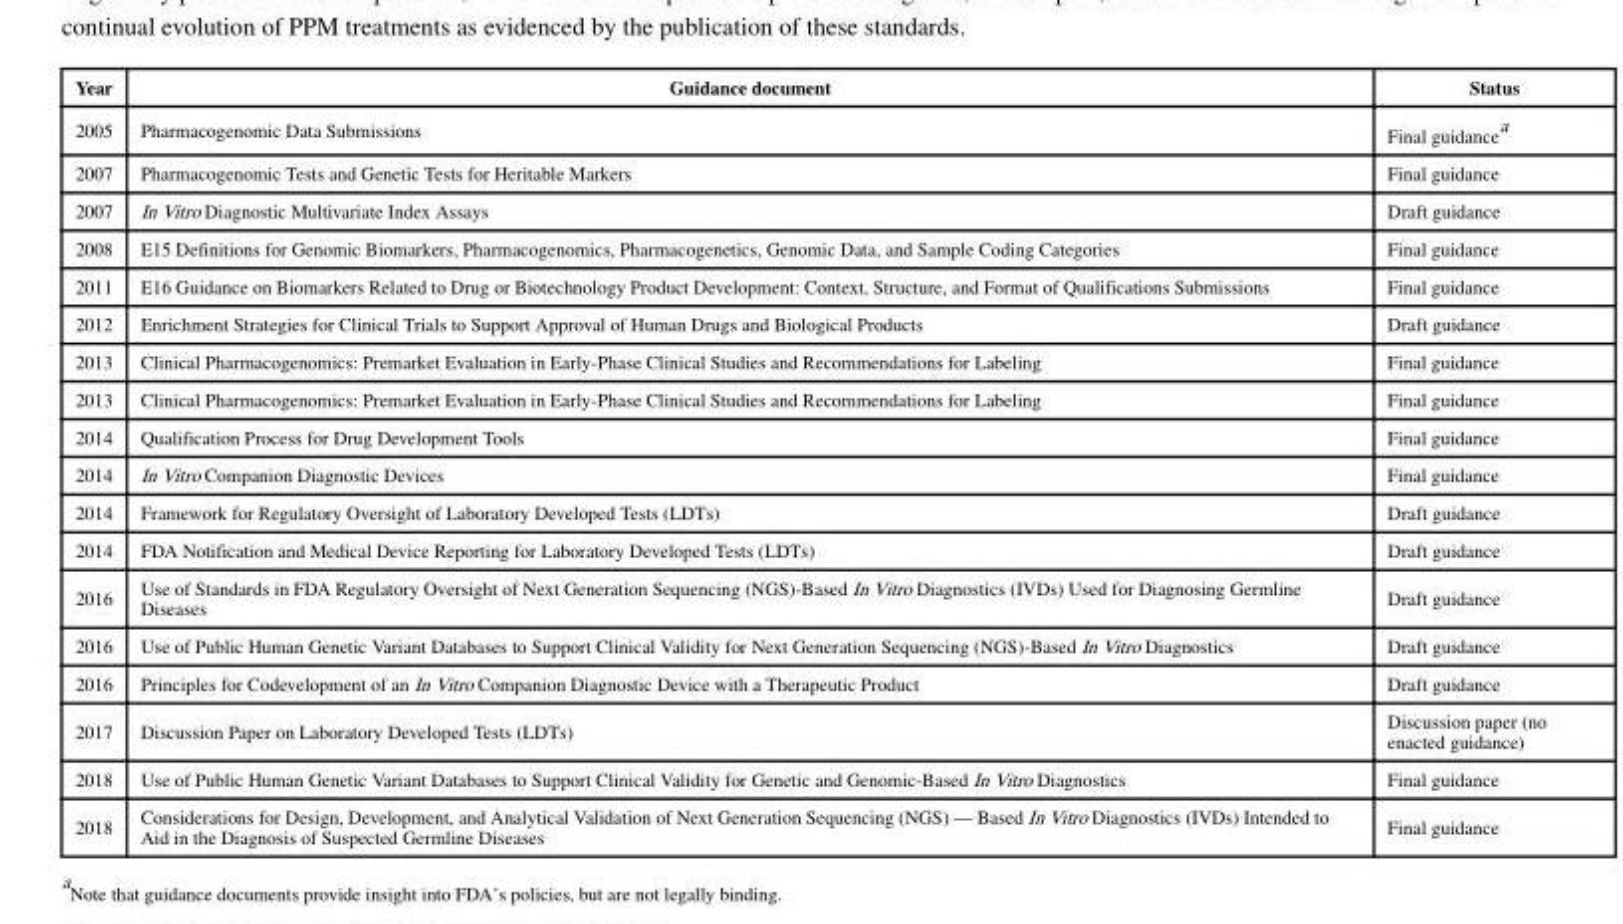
<table><thead><tr><td>Year</td><td>Guidance document</td><td>Status</td></tr></thead><tbody><tr><td>2005</td><td>Pharmacogenomic Data Submissions</td><td>Final guidance<sup>a</sup></td></tr><tr><td>2007</td><td>Pharmacogenomic Tests and Genetic Tests for Heritable Markers</td><td>Final guidance</td></tr><tr><td>2007</td><td>In Vitro Diagnostic Multivariate Index Assays</td><td>Draft guidance</td></tr><tr><td>2008</td><td>E15 Definitions for Genomic Biomarkers, Pharmacogenomics, Pharmacogenetics, Genomic Data, and Sample Coding Categories</td><td>Final guidance</td></tr><tr><td>2011</td><td>E16 Guidance on Biomarkers Related to Drug or Biotechnology Product Development: Context, Structure, and Format of Qualifications Submissions</td><td>Final guidance</td></tr><tr><td>2012</td><td>Enrichment Strategies for Clinical Trials to Support Approval of Human Drugs and Biological Products</td><td>Draft guidance</td></tr><tr><td>2013</td><td>Clinical Pharmacogenomics: Premarket Evaluation in Early-Phase Clinical Studies and Recommendations for Labeling</td><td>Final guidance</td></tr><tr><td>2013</td><td>Clinical Pharmacogenomics: Premarket Evaluation in Early-Phase Clinical Studies and Recommendations for Labeling</td><td>Final guidance</td></tr><tr><td>2014</td><td>Qualification Process for Drug Development Tools</td><td>Final guidance</td></tr><tr><td>2014</td><td>In Vitro Companion Diagnostic Devices</td><td>Final guidance</td></tr><tr><td>2014</td><td>Framework for Regulatory Oversight of Laboratory Developed Tests (LDTs)</td><td>Draft guidance</td></tr><tr><td>2014</td><td>FDA Notification and Medical Device Reporting for Laboratory Developed Tests (LDTs)</td><td>Draft guidance</td></tr><tr><td>2016</td><td>Use of Standards in FDA Regulatory Oversight of Next Generation Sequencing (NGS)-Based In Vitro Diagnostics (IVDs) Used for Diagnosing Germline Diseases</td><td>Draft guidance</td></tr><tr><td>2016</td><td>Use of Public Human Genetic Variant Databases to Support Clinical Validity for Next Generation Sequencing (NGS)-Based In Vitro Diagnostics</td><td>Draft guidance</td></tr><tr><td>2016</td><td>Principles for Codevelopment of an In Vitro Companion Diagnostic Device with a Therapeutic Product</td><td>Draft guidance</td></tr><tr><td>2017</td><td>Discussion Paper on Laboratory Developed Tests (LDTs)</td><td>Discussion paper (no enacted guidance)</td></tr><tr><td>2018</td><td>Use of Public Human Genetic Variant Databases to Support Clinical Validity for Genetic and Genomic-Based In Vitro Diagnostics</td><td>Final guidance</td></tr><tr><td>2018</td><td>Considerations for Design, Development, and Analytical Validation of Next Generation Sequencing (NGS) — Based In Vitro Diagnostics (IVDs) Intended to Aid in the Diagnosis of Suspected Germline Diseases</td><td>Final guidance</td></tr></tbody></table>